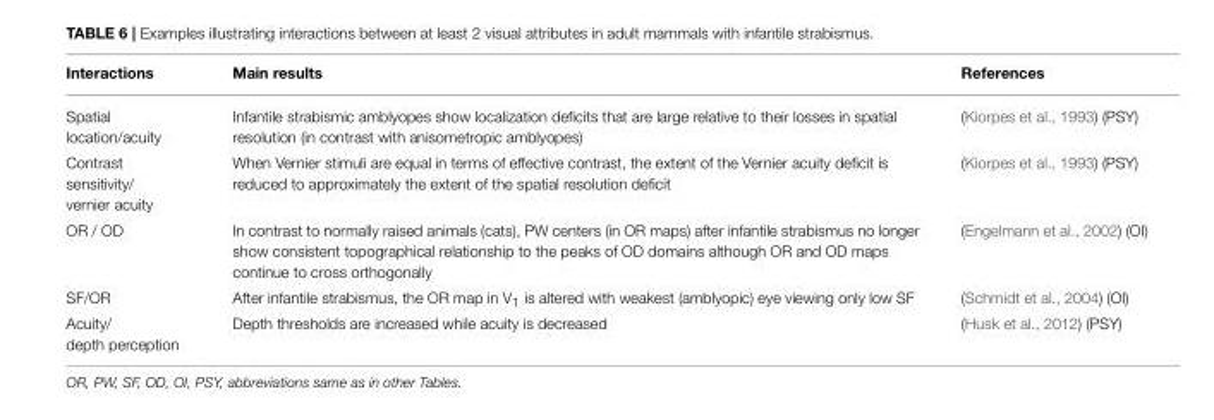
<table><thead><tr><td>Interactions</td><td>Main results</td><td>References</td></tr></thead><tbody><tr><td>Spatial location/acuity</td><td>Infantile strabismic amblyopes show localization deficits that are large relative to their losses in spatial resolution (in contrast with anisometropic amblyopes)</td><td>(Kiorpes et al., 1993) (PSY)</td></tr><tr><td>Contrast sensitivity/ vernier acuity</td><td>When Vernier stimuli are equal in terms of effective contrast, the extent of the Vernier acuity deficit is reduced to approximately the extent of the spatial resolution deficit</td><td>(Kiorpes et al., 1993) (PSY)</td></tr><tr><td>OR / OD</td><td>In contrast to normally raised animals (cats), PW centers (in OR maps) after infantile strabismus no longer show consistent topographical relationship to the peaks of OD domains although OR and OD maps continue to cross orthogonally</td><td>(Engelmann et al., 2002) (OI)</td></tr><tr><td>SF/OR</td><td>After infantile strabismus, the OR map in V<sub>1</sub> is altered with weakest (amblyopic) eye viewing only low SF</td><td>(Schmidt et al., 2004) (OI)</td></tr><tr><td>Acuity/ depth perception</td><td>Depth thresholds are increased while acuity is decreased</td><td>(Husk et al., 2012) (PSY)</td></tr></tbody></table>